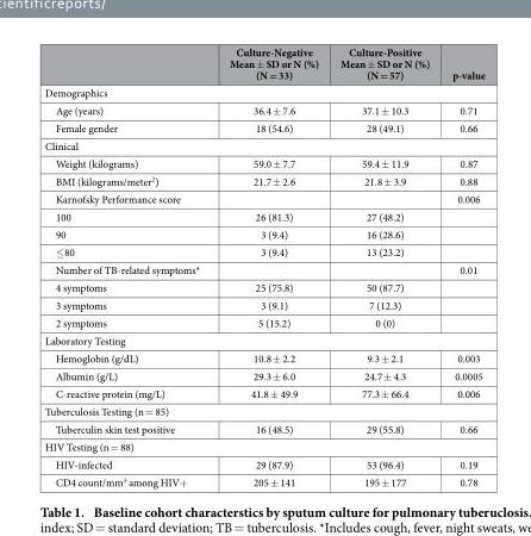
<table><thead><tr><td></td><td>Culture-Negative Mean ± SD or N (%) (N = 33)</td><td>Culture-Positive Mean ± SD or N (%) (N = 57)</td><td>p-value</td></tr></thead><tbody><tr><td colspan="4">Demographics</td></tr><tr><td>Age (years)</td><td>36.4 ± 7.6</td><td>37.1 ± 10.3</td><td>0.71</td></tr><tr><td>Female gender</td><td>18 (54.6)</td><td>28 (49.1)</td><td>0.66</td></tr><tr><td colspan="4">Clinical</td></tr><tr><td>Weight (kilograms)</td><td>59.0 ± 7.7</td><td>59.4 ± 11.9</td><td>0.87</td></tr><tr><td>BMI (kilograms/meter<sup>2</sup>)</td><td>21.7 ± 2.6</td><td>21.8 ± 3.9</td><td>0.88</td></tr><tr><td>Karnofsky Performance score</td><td></td><td></td><td>0.006</td></tr><tr><td>100</td><td>26 (81.3)</td><td>27 (48.2)</td><td></td></tr><tr><td>90</td><td>3 (9.4)</td><td>16 (28.6)</td><td></td></tr><tr><td>≤ 80</td><td>3 (9.4)</td><td>13 (23.2)</td><td></td></tr><tr><td>Number of TB-related symptoms*</td><td></td><td></td><td>0.01</td></tr><tr><td>4 symptoms</td><td>25 (75.8)</td><td>50 (87.7)</td><td></td></tr><tr><td>3 symptoms</td><td>3 (9.1)</td><td>7 (12.3)</td><td></td></tr><tr><td>2 symptoms</td><td>5 (15.2)</td><td>0 (0)</td><td></td></tr><tr><td colspan="4">Laboratory Testing</td></tr><tr><td>Hemoglobin (g/dL)</td><td>10.8 ± 2.2</td><td>9.3 ± 2.1</td><td>0.003</td></tr><tr><td>Albumin (g/L)</td><td>29.3 ± 6.0</td><td>24.7 ± 4.3</td><td>0.0005</td></tr><tr><td>C-reactive protein (mg/L)</td><td>41.8 ± 49.9</td><td>77.3 ± 66.4</td><td>0.006</td></tr><tr><td colspan="4">Tuberculosis Testing (n = 85)</td></tr><tr><td>Tuberculin skin test positive</td><td>16 (48.5)</td><td>29 (55.8)</td><td>0.66</td></tr><tr><td colspan="4">HIV Testing (n = 88)</td></tr><tr><td>HIV-infected</td><td>29 (87.9)</td><td>53 (96.4)</td><td>0.19</td></tr><tr><td>CD4 count/mm<sup>3</sup> among HIV+</td><td>205 ± 141</td><td>195 ± 177</td><td>0.78</td></tr></tbody></table>